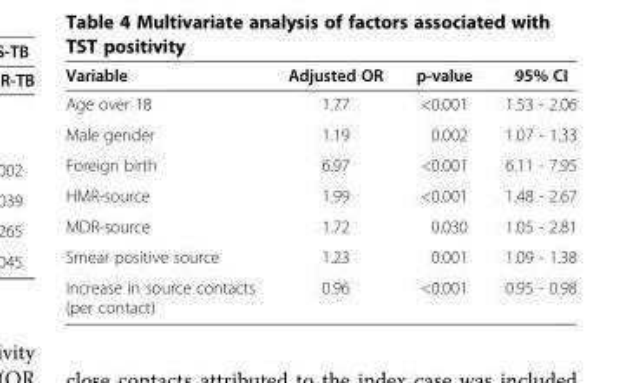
<table><thead><tr><td>Variable</td><td>Adjusted OR</td><td>p-value</td><td>95% CI</td></tr></thead><tbody><tr><td>Age over 18</td><td>1.77</td><td>&lt;0.001</td><td>1.53 - 2.06</td></tr><tr><td>Male gender</td><td>1.19</td><td>0.002</td><td>1.07 - 1.33</td></tr><tr><td>Foreign birth</td><td>6.97</td><td>&lt;0.001</td><td>6.11 - 7.95</td></tr><tr><td>HMR-source</td><td>1.99</td><td>&lt;0.001</td><td>1.48 - 2.67</td></tr><tr><td>MDR-source</td><td>1.72</td><td>0.030</td><td>1.05 - 2.81</td></tr><tr><td>Smear positive source</td><td>1.23</td><td>0.001</td><td>1.09 - 1.38</td></tr><tr><td>Increase in source contacts (per contact)</td><td>0.96</td><td>&lt;0.001</td><td>0.95 - 0.98</td></tr></tbody></table>